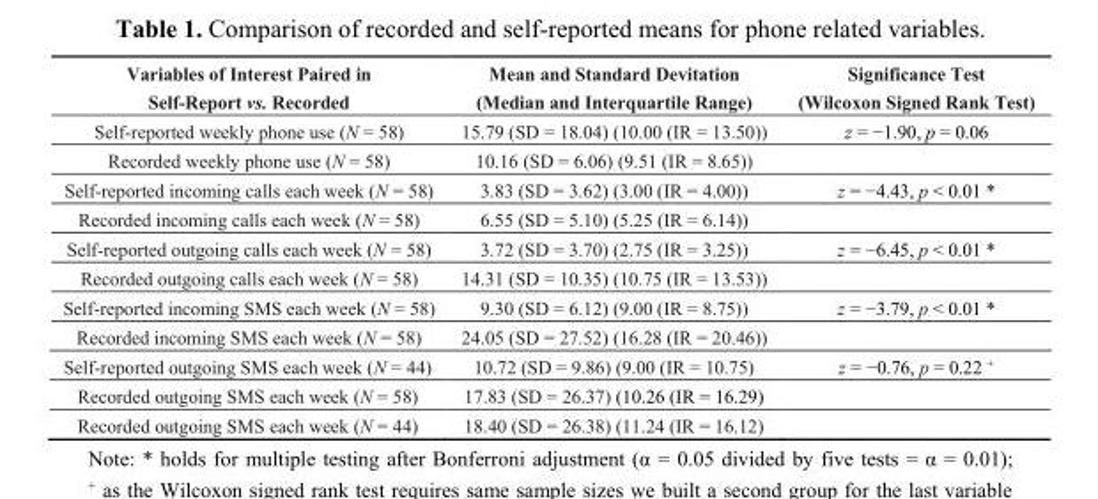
<table><thead><tr><td>Variables of Interest Paired in Self-Report vs. Recorded</td><td>Mean and Standard Devitation (Median and Interquartile Range)</td><td>Significance Test (Wilcoxon Signed Rank Test)</td></tr></thead><tbody><tr><td>Self-reported weekly phone use (N = 58)</td><td>15.79 (SD = 18.04) (10.00 (IR = 13.50))</td><td>z = −1.90, p = 0.06</td></tr><tr><td>Recorded weekly phone use (N = 58)</td><td>10.16 (SD = 6.06) (9.51 (IR = 8.65))</td><td></td></tr><tr><td>Self-reported incoming calls each week (N = 58)</td><td>3.83 (SD = 3.62) (3.00 (IR = 4.00))</td><td>z = −4.43, p &lt; 0.01 *</td></tr><tr><td>Recorded incoming calls each week (N = 58)</td><td>6.55 (SD = 5.10) (5.25 (IR = 6.14))</td><td></td></tr><tr><td>Self-reported outgoing calls each week (N = 58)</td><td>3.72 (SD = 3.70) (2.75 (IR = 3.25))</td><td>z = −6.45, p &lt; 0.01 *</td></tr><tr><td>Recorded outgoing calls each week (N = 58)</td><td>14.31 (SD = 10.35) (10.75 (IR = 13.53))</td><td></td></tr><tr><td>Self-reported incoming SMS each week (N = 58)</td><td>9.30 (SD = 6.12) (9.00 (IR = 8.75))</td><td>z = −3.79, p &lt; 0.01 *</td></tr><tr><td>Recorded incoming SMS each week (N = 58)</td><td>24.05 (SD = 27.52) (16.28 (IR = 20.46))</td><td></td></tr><tr><td>Self-reported outgoing SMS each week (N = 44)</td><td>10.72 (SD = 9.86) (9.00 (IR = 10.75)</td><td>z = −0.76, p = 0.22 <sup>+</sup></td></tr><tr><td>Recorded outgoing SMS each week (N = 58)</td><td>17.83 (SD = 26.37) (10.26 (IR = 16.29)</td><td></td></tr><tr><td>Recorded outgoing SMS each week (N = 44)</td><td>18.40 (SD = 26.38) (11.24 (IR = 16.12)</td><td></td></tr></tbody></table>